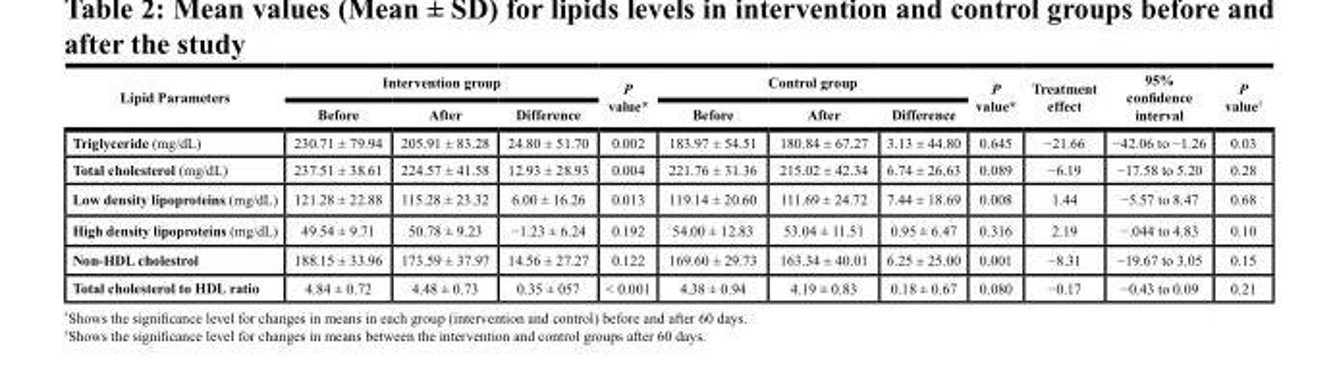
<table><thead><tr><td rowspan="2">Lipid Parameters</td><td colspan="3">Intervention group</td><td rowspan="2">P value*</td><td colspan="3">Control group</td><td rowspan="2">P value*</td><td rowspan="2">Treatment effect</td><td rowspan="2">95% confidence interval</td><td rowspan="2">P value<sup>†</sup></td></tr><tr><td>Before</td><td>After</td><td>Difference</td><td>Before</td><td>After</td><td>Difference</td></tr></thead><tbody><tr><td>Triglyceride (mg/dL)</td><td>230.71 ± 79.94</td><td>205.91 ± 83.28</td><td>24.80 ± 51.70</td><td>0.002</td><td>183.97 ± 54.51</td><td>180.84 ± 67.27</td><td>3.13 ± 44.80</td><td>0.645</td><td>−21.66</td><td>−42.06 to −1.26</td><td>0.03</td></tr><tr><td>Total cholesterol (mg/dL)</td><td>237.51 ± 38.61</td><td>224.57 ± 41.58</td><td>12.93 ± 28.93</td><td>0.004</td><td>221.76 ± 31.36</td><td>215.02 ± 42.34</td><td>6.74 ± 26.63</td><td>0.089</td><td>−6.19</td><td>−17.58 to 5.20</td><td>0.28</td></tr><tr><td>Low density lipoproteins (mg/dL)</td><td>121.28 ± 22.88</td><td>115.28 ± 23.32</td><td>6.00 ± 16.26</td><td>0.013</td><td>119.14 ± 20.60</td><td>111.69 ± 24.72</td><td>7.44 ± 18.69</td><td>0.008</td><td>1.44</td><td>−5.57 to 8.47</td><td>0.68</td></tr><tr><td>High density lipoproteins (mg/dL)</td><td>49.54 ± 9.71</td><td>50.78 ± 9.23</td><td>−1.23 ± 6.24</td><td>0.192</td><td>54.00 ± 12.83</td><td>53.04 ± 11.51</td><td>0.95 ± 6.47</td><td>0.316</td><td>2.19</td><td>−.044 to 4.83</td><td>0.10</td></tr><tr><td>Non-HDL cholestrol</td><td>188.15 ± 33.96</td><td>173.59 ± 37.97</td><td>14.56 ± 27.27</td><td>0.122</td><td>169.60 ± 29.73</td><td>163.34 ± 40.01</td><td>6.25 ± 25.00</td><td>0.001</td><td>−8.31</td><td>−19.67 to 3.05</td><td>0.15</td></tr><tr><td>Total cholesterol to HDL ratio</td><td>4.84 ± 0.72</td><td>4.48 ± 0.73</td><td>0.35 ± 057</td><td>&lt; 0.001</td><td>4.38 ± 0.94</td><td>4.19 ± 0.83</td><td>0.18 ± 0.67</td><td>0.080</td><td>−0.17</td><td>−0.43 to 0.09</td><td>0.21</td></tr></tbody></table>